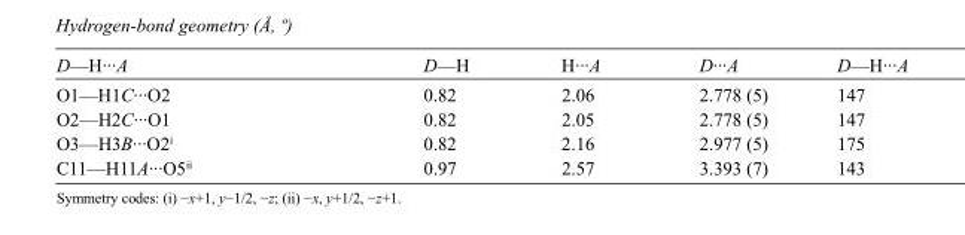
<table><tbody><tr><td>D—H···A</td><td>D—H</td><td>H···A</td><td>D···A</td><td>D—H···A</td></tr><tr><td>O1—H1C···O2</td><td>0.82</td><td>2.06</td><td>2.778 (5)</td><td>147</td></tr><tr><td>O2—H2C···O1</td><td>0.82</td><td>2.05</td><td>2.778 (5)</td><td>147</td></tr><tr><td>O3—H3B···O2<sup>i</sup></td><td>0.82</td><td>2.16</td><td>2.977 (5)</td><td>175</td></tr><tr><td>C11—H11A···O5<sup>ii</sup></td><td>0.97</td><td>2.57</td><td>3.393 (7)</td><td>143</td></tr></tbody></table>